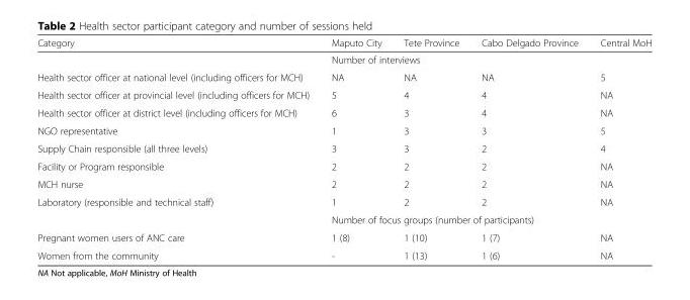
<table><thead><tr><td>Category</td><td>Maputo City</td><td>Tete Province</td><td>Cabo Delgado Province</td><td>Central MoH</td></tr></thead><tbody><tr><td></td><td colspan="4">Number of interviews</td></tr><tr><td>Health sector officer at national level (including officers for MCH)</td><td>NA</td><td>NA</td><td>NA</td><td>5</td></tr><tr><td>Health sector officer at provincial level (including officers for MCH)</td><td>5</td><td>4</td><td>4</td><td>NA</td></tr><tr><td>Health sector officer at district level (including officers for MCH)</td><td>6</td><td>3</td><td>4</td><td>NA</td></tr><tr><td>NGO representative</td><td>1</td><td>3</td><td>3</td><td>5</td></tr><tr><td>Supply Chain responsible (all three levels)</td><td>3</td><td>3</td><td>2</td><td>4</td></tr><tr><td>Facility or Program responsible</td><td>2</td><td>2</td><td>2</td><td>NA</td></tr><tr><td>MCH nurse</td><td>2</td><td>2</td><td>2</td><td>NA</td></tr><tr><td rowspan="2">Laboratory (responsible and technical staff)</td><td>1</td><td>2</td><td>2</td><td>NA</td></tr><tr><td colspan="4">Number of focus groups (number of participants)</td></tr><tr><td>Pregnant women users of ANC care</td><td>1 (8)</td><td>1 (10)</td><td>1 (7)</td><td>NA</td></tr><tr><td>Women from the community</td><td>-</td><td>1 (13)</td><td>1 (6)</td><td>NA</td></tr></tbody></table>